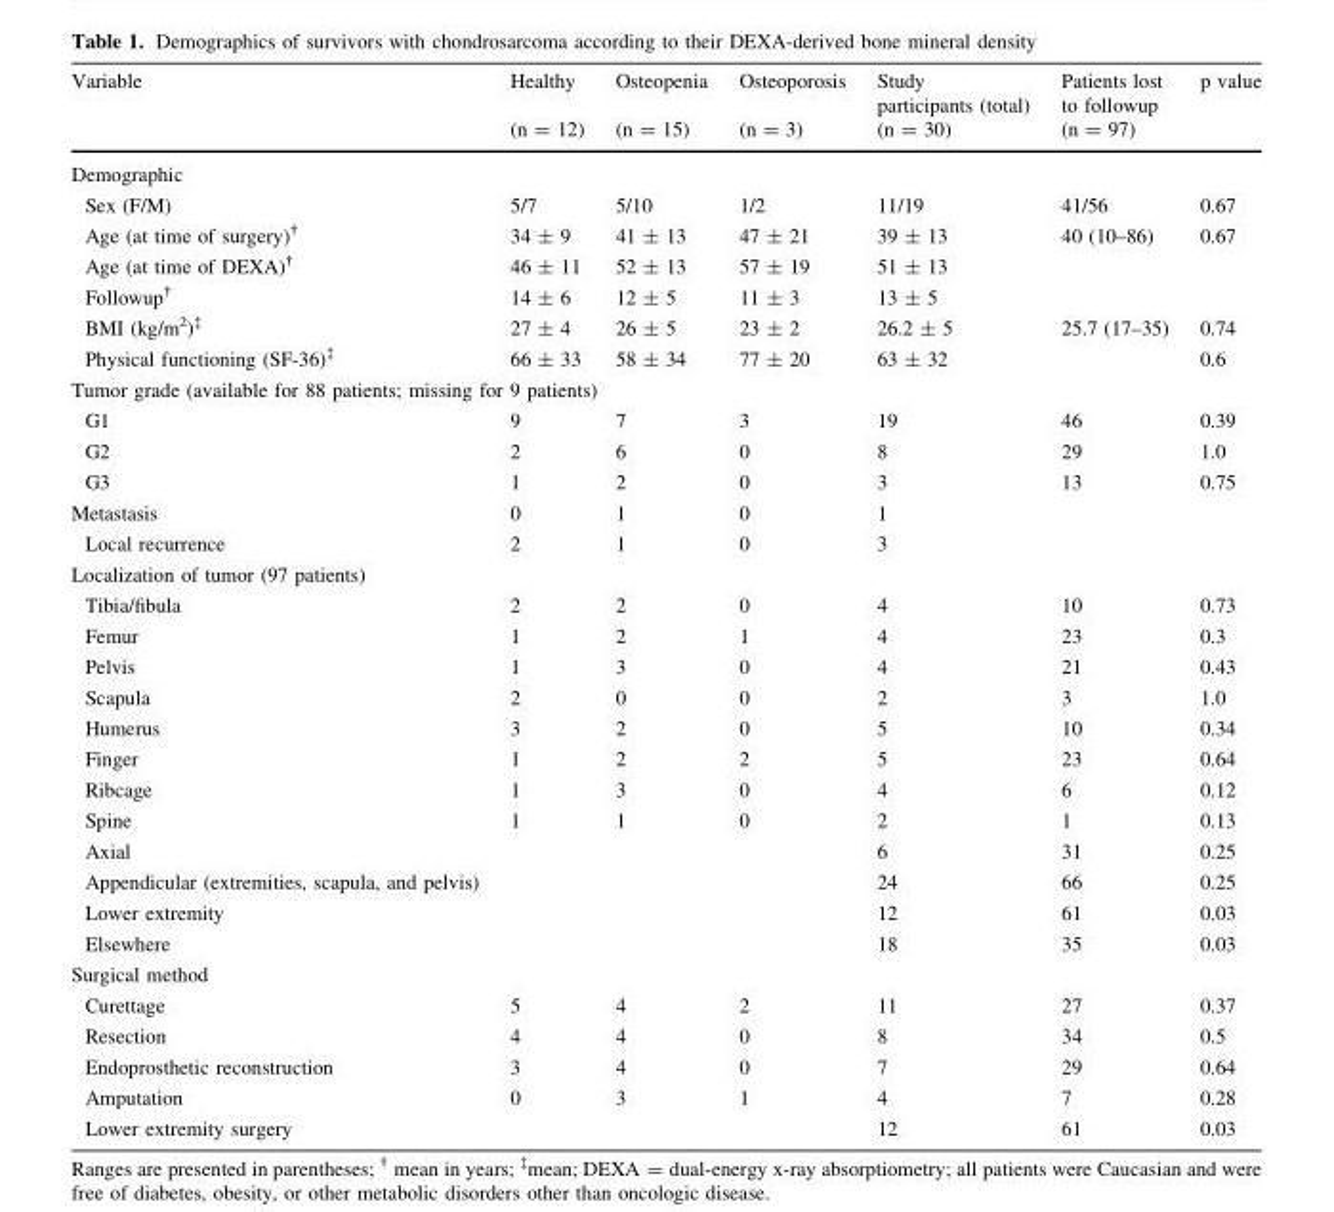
<table><thead><tr><td rowspan="2">Variable</td><td rowspan="2">Healthy (n = 12)</td><td rowspan="2">Osteopenia (n = 15)</td><td rowspan="2">Osteoporosis (n = 3)</td><td rowspan="2">Study participants (total) (n = 30)</td><td rowspan="2">Patients lost to followup (n = 97)</td><td rowspan="2">p value</td></tr><tr></tr></thead><tbody><tr><td colspan="7">Demographic</td></tr><tr><td>Sex (F/M)</td><td>5/7</td><td>5/10</td><td>1/2</td><td>11/19</td><td>41/56</td><td>0.67</td></tr><tr><td>Age (at time of surgery)<sup>†</sup></td><td>34 ± 9</td><td>41 ± 13</td><td>47 ± 21</td><td>39 ± 13</td><td>40 (10–86)</td><td>0.67</td></tr><tr><td>Age (at time of DEXA)<sup>†</sup></td><td>46 ± 11</td><td>52 ± 13</td><td>57 ± 19</td><td>51 ± 13</td><td></td><td></td></tr><tr><td>Followup<sup>†</sup></td><td>14 ± 6</td><td>12 ± 5</td><td>11 ± 3</td><td>13 ± 5</td><td></td><td></td></tr><tr><td>BMI (kg/m<sup>2</sup>)<sup>‡</sup></td><td>27 ± 4</td><td>26 ± 5</td><td>23 ± 2</td><td>26.2 ± 5</td><td>25.7 (17–35)</td><td>0.74</td></tr><tr><td>Physical functioning (SF-36)<sup>‡</sup></td><td>66 ± 33</td><td>58 ± 34</td><td>77 ± 20</td><td>63 ± 32</td><td></td><td>0.6</td></tr><tr><td colspan="7">Tumor grade (available for 88 patients; missing for 9 patients)</td></tr><tr><td>G1</td><td>9</td><td>7</td><td>3</td><td>19</td><td>46</td><td>0.39</td></tr><tr><td>G2</td><td>2</td><td>6</td><td>0</td><td>8</td><td>29</td><td>1.0</td></tr><tr><td>G3</td><td>1</td><td>2</td><td>0</td><td>3</td><td>13</td><td>0.75</td></tr><tr><td>Metastasis</td><td>0</td><td>1</td><td>0</td><td>1</td><td></td><td></td></tr><tr><td>Local recurrence</td><td>2</td><td>1</td><td>0</td><td>3</td><td></td><td></td></tr><tr><td colspan="7">Localization of tumor (97 patients)</td></tr><tr><td>Tibia/fibula</td><td>2</td><td>2</td><td>0</td><td>4</td><td>10</td><td>0.73</td></tr><tr><td>Femur</td><td>1</td><td>2</td><td>1</td><td>4</td><td>23</td><td>0.3</td></tr><tr><td>Pelvis</td><td>1</td><td>3</td><td>0</td><td>4</td><td>21</td><td>0.43</td></tr><tr><td>Scapula</td><td>2</td><td>0</td><td>0</td><td>2</td><td>3</td><td>1.0</td></tr><tr><td>Humerus</td><td>3</td><td>2</td><td>0</td><td>5</td><td>10</td><td>0.34</td></tr><tr><td>Finger</td><td>1</td><td>2</td><td>2</td><td>5</td><td>23</td><td>0.64</td></tr><tr><td>Ribcage</td><td>1</td><td>3</td><td>0</td><td>4</td><td>6</td><td>0.12</td></tr><tr><td>Spine</td><td>1</td><td>1</td><td>0</td><td>2</td><td>1</td><td>0.13</td></tr><tr><td>Axial</td><td></td><td></td><td></td><td>6</td><td>31</td><td>0.25</td></tr><tr><td>Appendicular (extremities, scapula, and pelvis)</td><td></td><td></td><td></td><td>24</td><td>66</td><td>0.25</td></tr><tr><td>Lower extremity</td><td></td><td></td><td></td><td>12</td><td>61</td><td>0.03</td></tr><tr><td>Elsewhere</td><td></td><td></td><td></td><td>18</td><td>35</td><td>0.03</td></tr><tr><td colspan="7">Surgical method</td></tr><tr><td>Curettage</td><td>5</td><td>4</td><td>2</td><td>11</td><td>27</td><td>0.37</td></tr><tr><td>Resection</td><td>4</td><td>4</td><td>0</td><td>8</td><td>34</td><td>0.5</td></tr><tr><td>Endoprosthetic reconstruction</td><td>3</td><td>4</td><td>0</td><td>7</td><td>29</td><td>0.64</td></tr><tr><td>Amputation</td><td>0</td><td>3</td><td>1</td><td>4</td><td>7</td><td>0.28</td></tr><tr><td>Lower extremity surgery</td><td></td><td></td><td></td><td>12</td><td>61</td><td>0.03</td></tr></tbody></table>